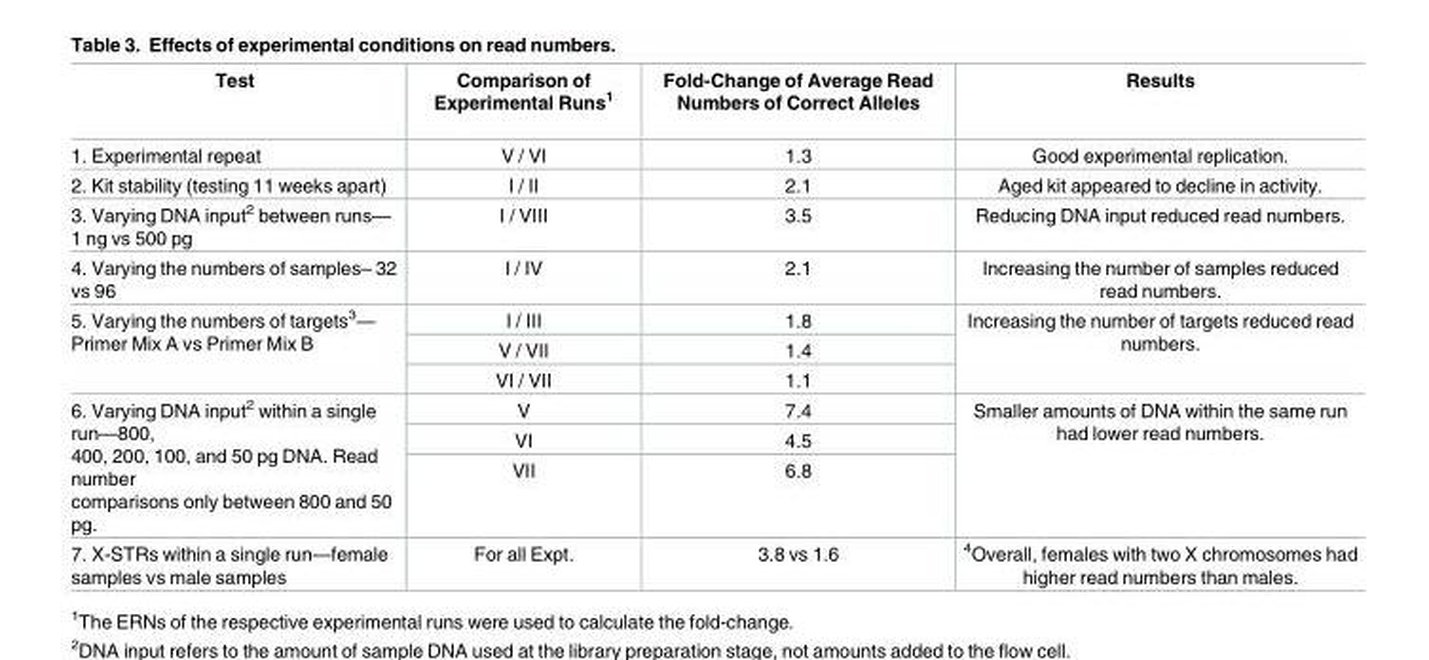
<table><thead><tr><td>Test</td><td>Comparison of Experimental Runs<sup>1</sup></td><td>Fold-Change of Average Read Numbers of Correct Alleles</td><td>Results</td></tr></thead><tbody><tr><td>1. Experimental repeat</td><td>V / VI</td><td>1.3</td><td>Good experimental replication.</td></tr><tr><td>2. Kit stability (testing 11 weeks apart)</td><td>I / II</td><td>2.1</td><td>Aged kit appeared to decline in activity.</td></tr><tr><td>3. Varying DNA input<sup>2</sup> between runs— 1 ng vs 500 pg</td><td>I / VIII</td><td>3.5</td><td>Reducing DNA input reduced read numbers.</td></tr><tr><td>4. Varying the numbers of samples– 32 vs 96</td><td>I / IV</td><td>2.1</td><td>Increasing the number of samples reduced read numbers.</td></tr><tr><td rowspan="3">5. Varying the numbers of targets<sup>3</sup>— Primer Mix A vs Primer Mix B</td><td>I / III</td><td>1.8</td><td rowspan="3">Increasing the number of targets reduced read numbers.</td></tr><tr><td>V / VII</td><td>1.4</td></tr><tr><td>VI / VII</td><td>1.1</td></tr><tr><td rowspan="3">6. Varying DNA input<sup>2</sup> within a single run—800, 400, 200, 100, and 50 pg DNA. Read number comparisons only between 800 and 50 pg.</td><td>V</td><td>7.4</td><td rowspan="3">Smaller amounts of DNA within the same run had lower read numbers.</td></tr><tr><td>VI</td><td>4.5</td></tr><tr><td>VII</td><td>6.8</td></tr><tr><td>7. X-STRs within a single run—female samples vs male samples</td><td>For all Expt.</td><td>3.8 vs 1.6</td><td><sup>4</sup>Overall, females with two X chromosomes had higher read numbers than males.</td></tr></tbody></table>